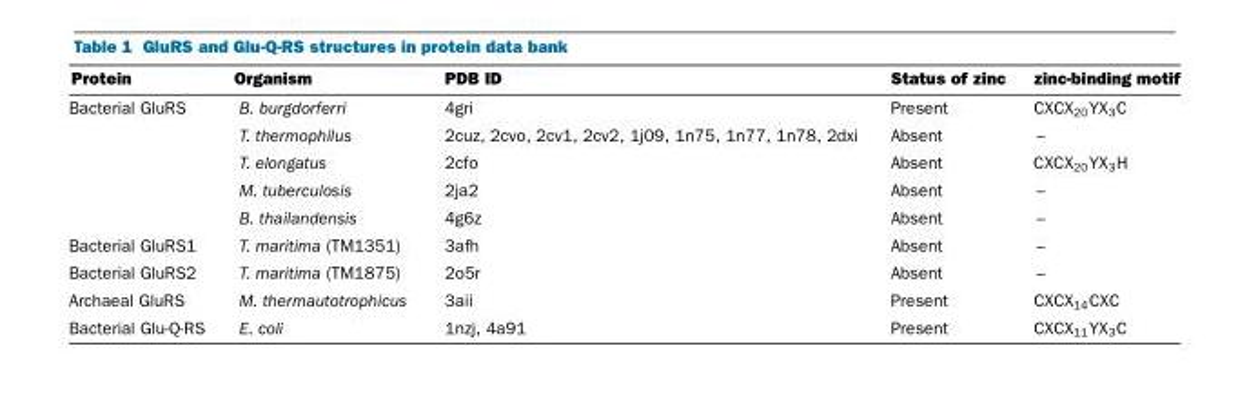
<table><thead><tr><td>Protein</td><td>Organism</td><td>PDB ID</td><td>Status of zinc</td><td>zinc-binding motif</td></tr></thead><tbody><tr><td rowspan="5">Bacterial GluRS</td><td>B. burgdorferri</td><td>4gri</td><td>Present</td><td>CXCX<sub>20</sub>YX<sub>3</sub>C</td></tr><tr><td>T. thermophilus</td><td>2cuz, 2cvo, 2cv1, 2cv2, 1j09, 1n75, 1n77, 1n78, 2dxi</td><td>Absent</td><td>–</td></tr><tr><td>T. elongatus</td><td>2cfo</td><td>Absent</td><td>CXCX<sub>20</sub>YX<sub>3</sub>H</td></tr><tr><td>M. tuberculosis</td><td>2ja2</td><td>Absent</td><td>–</td></tr><tr><td>B. thailandensis</td><td>4g6z</td><td>Absent</td><td>–</td></tr><tr><td>Bacterial GluRS1</td><td>T. maritima (TM1351)</td><td>3afh</td><td>Absent</td><td>–</td></tr><tr><td>Bacterial GluRS2</td><td>T. maritima (TM1875)</td><td>2o5r</td><td>Absent</td><td>–</td></tr><tr><td>Archaeal GluRS</td><td>M. thermautotrophicus</td><td>3aii</td><td>Present</td><td>CXCX<sub>14</sub>CXC</td></tr><tr><td>Bacterial Glu-Q-RS</td><td>E. coli</td><td>1nzj, 4a91</td><td>Present</td><td>CXCX<sub>11</sub>YX<sub>3</sub>C</td></tr></tbody></table>